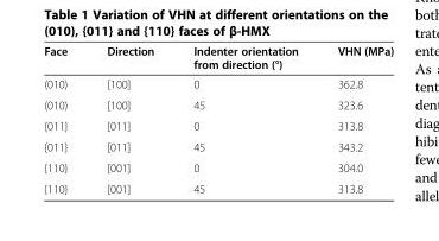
<table><thead><tr><td>Face</td><td>Direction</td><td>Indenter orientation from direction (°)</td><td>VHN (MPa)</td></tr></thead><tbody><tr><td>(010)</td><td>[100]</td><td>0</td><td>362.8</td></tr><tr><td>(010)</td><td>[100]</td><td>45</td><td>323.6</td></tr><tr><td>{011}</td><td>[011]</td><td>0</td><td>313.8</td></tr><tr><td>{011}</td><td>[011]</td><td>45</td><td>343.2</td></tr><tr><td>{110}</td><td>[001]</td><td>0</td><td>304.0</td></tr><tr><td>{110}</td><td>[001]</td><td>45</td><td>313.8</td></tr></tbody></table>